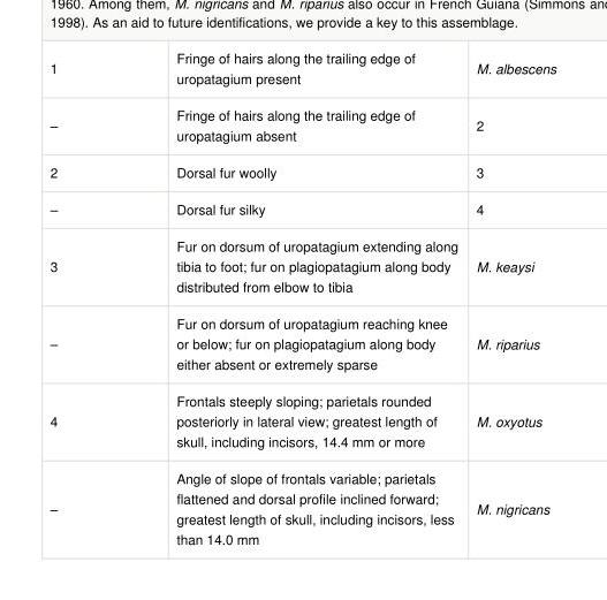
<table><tbody><tr><td>1</td><td>Fringe of hairs along the trailing edge of uropatagium present</td><td>M. albescens</td></tr><tr><td>–</td><td>Fringe of hairs along the trailing edge of uropatagium absent</td><td>2</td></tr><tr><td>2</td><td>Dorsal fur woolly</td><td>3</td></tr><tr><td>–</td><td>Dorsal fur silky</td><td>4</td></tr><tr><td>3</td><td>Fur on dorsum of uropatagium extending along tibia to foot; fur on plagiopatagium along body distributed from elbow to tibia</td><td>M. keaysi</td></tr><tr><td>–</td><td>Fur on dorsum of uropatagium reaching knee or below; fur on plagiopatagium along body either absent or extremely sparse</td><td>M. riparius</td></tr><tr><td>4</td><td>Frontals steeply sloping; parietals rounded posteriorly in lateral view; greatest length of skull, including incisors, 14.4 mm or more</td><td>M. oxyotus</td></tr><tr><td>–</td><td>Angle of slope of frontals variable; parietals flattened and dorsal profile inclined forward; greatest length of skull, including incisors, less than 14.0 mm</td><td>M. nigricans</td></tr></tbody></table>